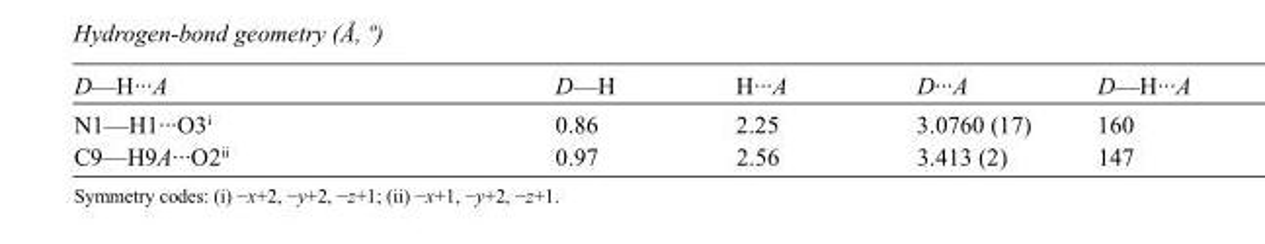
<table><tbody><tr><td>D—H···A</td><td>D—H</td><td>H···A</td><td>D···A</td><td>D—H···A</td></tr><tr><td>N1—H1···O3<sup>i</sup></td><td>0.86</td><td>2.25</td><td>3.0760 (17)</td><td>160</td></tr><tr><td>C9—H9A···O2<sup>ii</sup></td><td>0.97</td><td>2.56</td><td>3.413 (2)</td><td>147</td></tr></tbody></table>